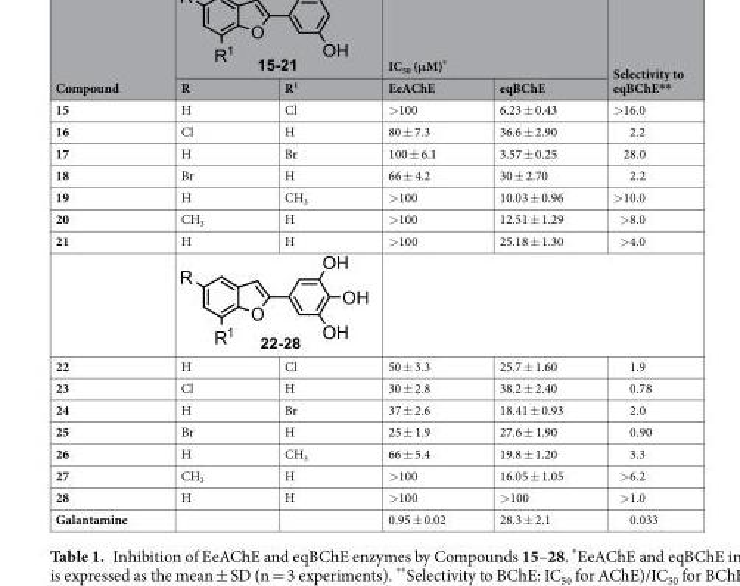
<table><thead><tr><td rowspan="2">Compound</td><td rowspan="2">R</td><td rowspan="2">R<sup>1</sup></td><td colspan="2">IC<sub>50</sub> (μM)*</td><td rowspan="2">Selectivity to eqBChE**</td></tr><tr><td>EeAChE</td><td>eqBChE</td></tr></thead><tbody><tr><td>15</td><td>H</td><td>Cl</td><td>&gt;100</td><td>6.23 ± 0.43</td><td>&gt;16.0</td></tr><tr><td>16</td><td>Cl</td><td>H</td><td>80 ± 7.3</td><td>36.6 ± 2.90</td><td>2.2</td></tr><tr><td>17</td><td>H</td><td>Br</td><td>100 ± 6.1</td><td>3.57 ± 0.25</td><td>28.0</td></tr><tr><td>18</td><td>Br</td><td>H</td><td>66 ± 4.2</td><td>30 ± 2.70</td><td>2.2</td></tr><tr><td>19</td><td>H</td><td>CH<sub>3</sub></td><td>&gt;100</td><td>10.03 ± 0.96</td><td>&gt;10.0</td></tr><tr><td>20</td><td>CH<sub>3</sub></td><td>H</td><td>&gt;100</td><td>12.51 ± 1.29</td><td>&gt;8.0</td></tr><tr><td>21</td><td>H</td><td>H</td><td>&gt;100</td><td>25.18 ± 1.30</td><td>&gt;4.0</td></tr><tr><td>22</td><td>H</td><td>Cl</td><td>50 ± 3.3</td><td>25.7 ± 1.60</td><td>1.9</td></tr><tr><td>23</td><td>Cl</td><td>H</td><td>30 ± 2.8</td><td>38.2 ± 2.40</td><td>0.78</td></tr><tr><td>24</td><td>H</td><td>Br</td><td>37 ± 2.6</td><td>18.41 ± 0.93</td><td>2.0</td></tr><tr><td>25</td><td>Br</td><td>H</td><td>25 ± 1.9</td><td>27.6 ± 1.90</td><td>0.90</td></tr><tr><td>26</td><td>H</td><td>CH<sub>3</sub></td><td>66 ± 5.4</td><td>19.8 ± 1.20</td><td>3.3</td></tr><tr><td>27</td><td>CH<sub>3</sub></td><td>H</td><td>&gt;100</td><td>16.05 ± 1.05</td><td>&gt;6.2</td></tr><tr><td>28</td><td>H</td><td>H</td><td>&gt;100</td><td>&gt;100</td><td>&gt;1.0</td></tr><tr><td>Galantamine</td><td></td><td></td><td>0.95 ± 0.02</td><td>28.3 ± 2.1</td><td>0.033</td></tr></tbody></table>